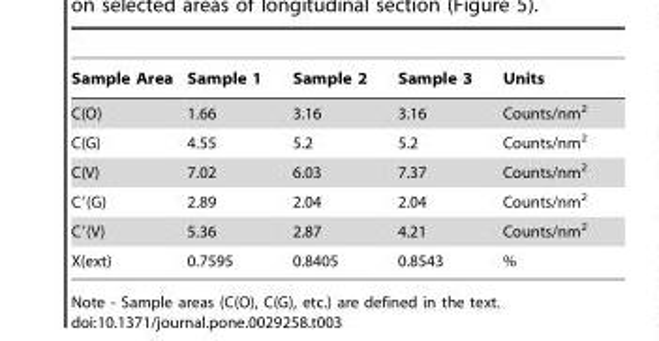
<table><thead><tr><td>Sample Area</td><td>Sample 1</td><td>Sample 2</td><td>Sample 3</td><td>Units</td></tr></thead><tbody><tr><td>C(O)</td><td>1.66</td><td>3.16</td><td>3.16</td><td>Counts/nm<sup>2</sup></td></tr><tr><td>C(G)</td><td>4.55</td><td>5.2</td><td>5.2</td><td>Counts/nm<sup>2</sup></td></tr><tr><td>C(V)</td><td>7.02</td><td>6.03</td><td>7.37</td><td>Counts/nm<sup>2</sup></td></tr><tr><td>C′(G)</td><td>2.89</td><td>2.04</td><td>2.04</td><td>Counts/nm<sup>2</sup></td></tr><tr><td>C′(V)</td><td>5.36</td><td>2.87</td><td>4.21</td><td>Counts/nm<sup>2</sup></td></tr><tr><td>X(ext)</td><td>0.7595</td><td>0.8405</td><td>0.8543</td><td>%</td></tr></tbody></table>